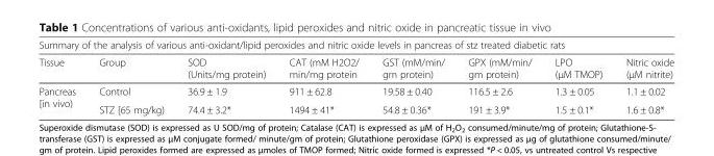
<table><thead><tr><td colspan="8">Summary of the analysis of various anti-oxidant/lipid peroxides and nitric oxide levels in pancreas of stz treated diabetic rats</td></tr><tr><td>Tissue</td><td>Group</td><td>SOD (Units/mg protein)</td><td>CAT (mM H2O2/ min/mg protein</td><td>GST (mM/min/ gm protein)</td><td>GPX (mM/min/ gm protein)</td><td>LPO (μM TMOP)</td><td>Nitric oxide (μM nitrite)</td></tr></thead><tbody><tr><td rowspan="2">Pancreas [in vivo)</td><td>Control</td><td>36.9 ± 1.9</td><td>911 ± 62.8</td><td>19.58 ± 0.40</td><td>116.5 ± 2.6</td><td>1.3 ± 0.05</td><td>1.1 ± 0.02</td></tr><tr><td>STZ [65 mg/kg)</td><td>74.4 ± 3.2*</td><td>1494 ± 41*</td><td>54.8 ± 0.36*</td><td>191 ± 3.9*</td><td>1.5 ± 0.1*</td><td>1.6 ± 0.8*</td></tr></tbody></table>